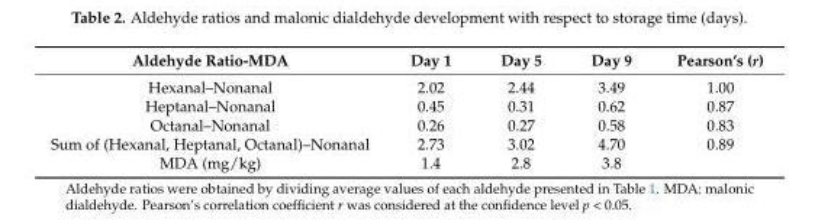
<table><thead><tr><td>Aldehyde Ratio-MDA</td><td>Day 1</td><td>Day 5</td><td>Day 9</td><td>Pearson’s (r)</td></tr></thead><tbody><tr><td>Hexanal–Nonanal</td><td>2.02</td><td>2.44</td><td>3.49</td><td>1.00</td></tr><tr><td>Heptanal–Nonanal</td><td>0.45</td><td>0.31</td><td>0.62</td><td>0.87</td></tr><tr><td>Octanal–Nonanal</td><td>0.26</td><td>0.27</td><td>0.58</td><td>0.83</td></tr><tr><td>Sum of (Hexanal, Heptanal, Octanal)–Nonanal</td><td>2.73</td><td>3.02</td><td>4.70</td><td>0.89</td></tr><tr><td>MDA (mg/kg)</td><td>1.4</td><td>2.8</td><td>3.8</td><td></td></tr></tbody></table>